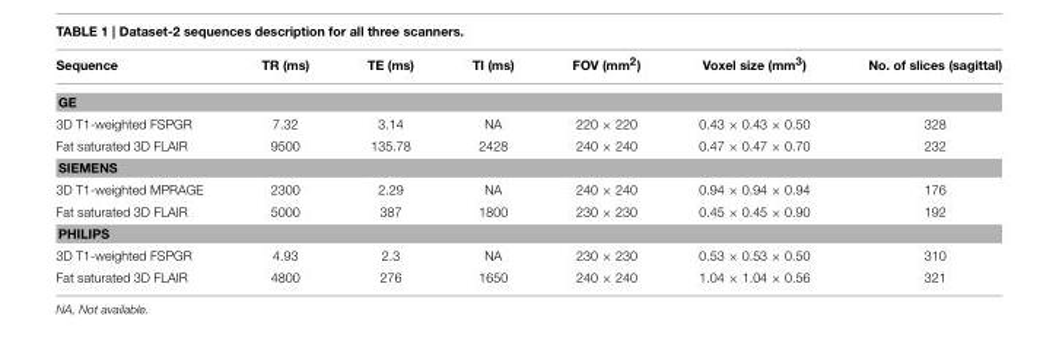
<table><thead><tr><td>Sequence</td><td>TR (ms)</td><td>TE (ms)</td><td>TI (ms)</td><td>FOV (mm<sup>2</sup>)</td><td>Voxel size (mm<sup>3</sup>)</td><td>No. of slices (sagittal)</td></tr></thead><tbody><tr><td colspan="7">GE</td></tr><tr><td>3D T1-weighted FSPGR</td><td>7.32</td><td>3.14</td><td>NA</td><td>220 × 220</td><td>0.43 × 0.43 × 0.50</td><td>328</td></tr><tr><td>Fat saturated 3D FLAIR</td><td>9500</td><td>135.78</td><td>2428</td><td>240 × 240</td><td>0.47 × 0.47 × 0.70</td><td>232</td></tr><tr><td colspan="7">SIEMENS</td></tr><tr><td>3D T1-weighted MPRAGE</td><td>2300</td><td>2.29</td><td>NA</td><td>240 × 240</td><td>0.94 × 0.94 × 0.94</td><td>176</td></tr><tr><td>Fat saturated 3D FLAIR</td><td>5000</td><td>387</td><td>1800</td><td>230 × 230</td><td>0.45 × 0.45 × 0.90</td><td>192</td></tr><tr><td colspan="7">PHILIPS</td></tr><tr><td>3D T1-weighted FSPGR</td><td>4.93</td><td>2.3</td><td>NA</td><td>230 × 230</td><td>0.53 × 0.53 × 0.50</td><td>310</td></tr><tr><td>Fat saturated 3D FLAIR</td><td>4800</td><td>276</td><td>1650</td><td>240 × 240</td><td>1.04 × 1.04 × 0.56</td><td>321</td></tr></tbody></table>